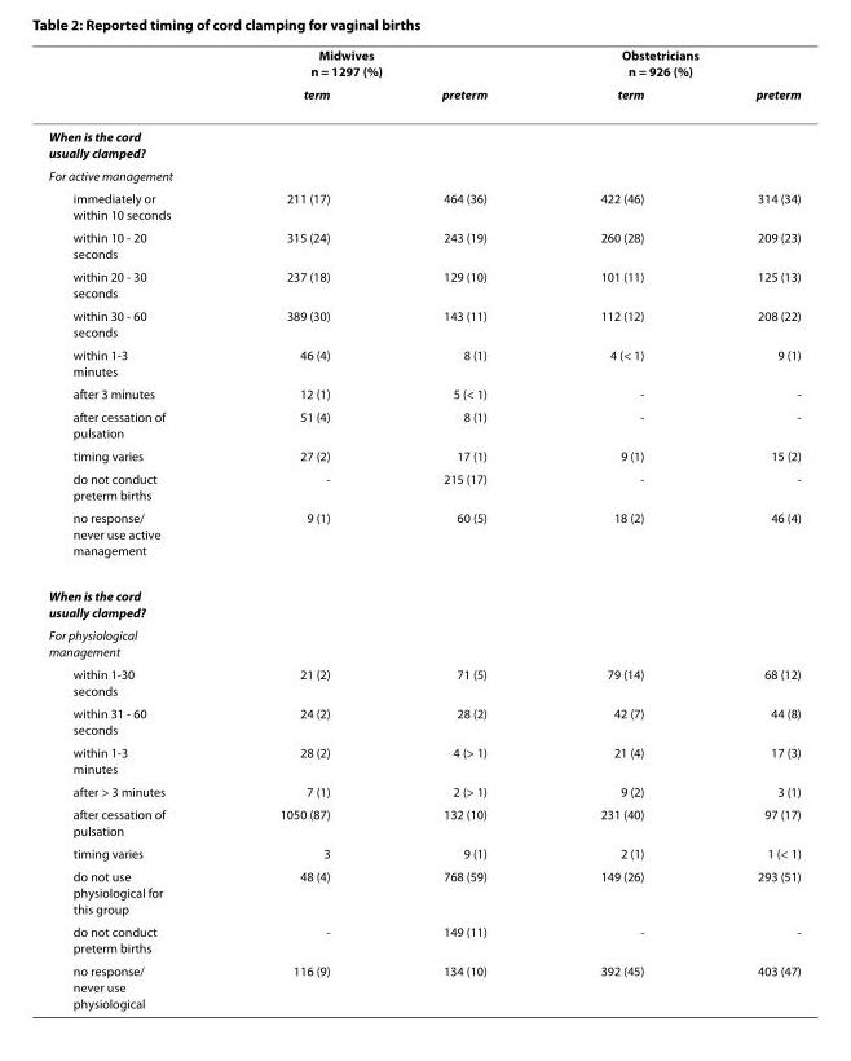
<table><thead><tr><td rowspan="2"></td><td colspan="2">Midwives n = 1297 (%)</td><td colspan="2">Obstetricians n = 926 (%)</td></tr><tr><td>term</td><td>preterm</td><td>term</td><td>preterm</td></tr></thead><tbody><tr><td colspan="5">When is the cord usually clamped?</td></tr><tr><td colspan="5">For active management</td></tr><tr><td>immediately or within 10 seconds</td><td>211 (17)</td><td>464 (36)</td><td>422 (46)</td><td>314 (34)</td></tr><tr><td>within 10 - 20 seconds</td><td>315 (24)</td><td>243 (19)</td><td>260 (28)</td><td>209 (23)</td></tr><tr><td>within 20 - 30 seconds</td><td>237 (18)</td><td>129 (10)</td><td>101 (11)</td><td>125 (13)</td></tr><tr><td>within 30 - 60 seconds</td><td>389 (30)</td><td>143 (11)</td><td>112 (12)</td><td>208 (22)</td></tr><tr><td>within 1-3 minutes</td><td>46 (4)</td><td>8 (1)</td><td>4 (&lt; 1)</td><td>9 (1)</td></tr><tr><td>after 3 minutes</td><td>12 (1)</td><td>5 (&lt; 1)</td><td>-</td><td>-</td></tr><tr><td>after cessation of pulsation</td><td>51 (4)</td><td>8 (1)</td><td>-</td><td>-</td></tr><tr><td>timing varies</td><td>27 (2)</td><td>17 (1)</td><td>9 (1)</td><td>15 (2)</td></tr><tr><td>do not conduct preterm births</td><td>-</td><td>215 (17)</td><td>-</td><td>-</td></tr><tr><td>no response/ never use active management</td><td>9 (1)</td><td>60 (5)</td><td>18 (2)</td><td>46 (4)</td></tr><tr><td colspan="5">When is the cord usually clamped?</td></tr><tr><td colspan="5">For physiological management</td></tr><tr><td>within 1-30 seconds</td><td>21 (2)</td><td>71 (5)</td><td>79 (14)</td><td>68 (12)</td></tr><tr><td>within 31 - 60 seconds</td><td>24 (2)</td><td>28 (2)</td><td>42 (7)</td><td>44 (8)</td></tr><tr><td>within 1-3 minutes</td><td>28 (2)</td><td>4 (&gt; 1)</td><td>21 (4)</td><td>17 (3)</td></tr><tr><td>after &gt; 3 minutes</td><td>7 (1)</td><td>2 (&gt; 1)</td><td>9 (2)</td><td>3 (1)</td></tr><tr><td>after cessation of pulsation</td><td>1050 (87)</td><td>132 (10)</td><td>231 (40)</td><td>97 (17)</td></tr><tr><td>timing varies</td><td>3</td><td>9 (1)</td><td>2 (1)</td><td>1 (&lt; 1)</td></tr><tr><td>do not use physiological for this group</td><td>48 (4)</td><td>768 (59)</td><td>149 (26)</td><td>293 (51)</td></tr><tr><td>do not conduct preterm births</td><td>-</td><td>149 (11)</td><td>-</td><td>-</td></tr><tr><td>no response/ never use physiological</td><td>116 (9)</td><td>134 (10)</td><td>392 (45)</td><td>403 (47)</td></tr></tbody></table>